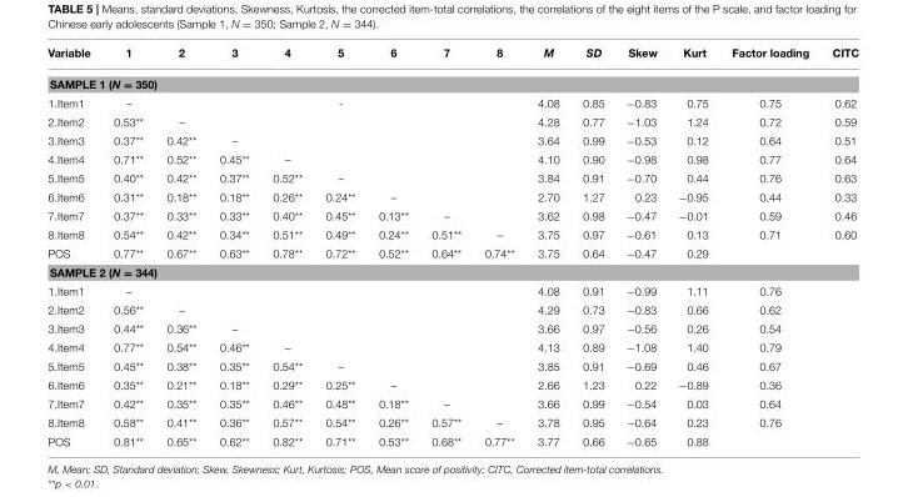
<table><thead><tr><td>Variable</td><td>1</td><td>2</td><td>3</td><td>4</td><td>5</td><td>6</td><td>7</td><td>8</td><td>M</td><td>SD</td><td>Skew</td><td>Kurt</td><td>Factor loading</td><td>CITC</td></tr></thead><tbody><tr><td colspan="15">SAMPLE 1 (N = 350)</td></tr><tr><td>1.Item1</td><td>–</td><td></td><td></td><td></td><td>-</td><td></td><td></td><td></td><td>4.08</td><td>0.85</td><td>−0.83</td><td>0.75</td><td>0.75</td><td>0.62</td></tr><tr><td>2.Item2</td><td>0.53**</td><td>–</td><td></td><td></td><td></td><td></td><td></td><td></td><td>4.28</td><td>0.77</td><td>−1.03</td><td>1.24</td><td>0.72</td><td>0.59</td></tr><tr><td>3.Item3</td><td>0.37**</td><td>0.42**</td><td>–</td><td></td><td></td><td></td><td></td><td></td><td>3.64</td><td>0.99</td><td>−0.53</td><td>0.12</td><td>0.64</td><td>0.51</td></tr><tr><td>4.Item4</td><td>0.71**</td><td>0.52**</td><td>0.45**</td><td>–</td><td></td><td></td><td></td><td></td><td>4.10</td><td>0.90</td><td>−0.98</td><td>0.98</td><td>0.77</td><td>0.64</td></tr><tr><td>5.Item5</td><td>0.40**</td><td>0.42**</td><td>0.37**</td><td>0.52**</td><td>–</td><td></td><td></td><td></td><td>3.84</td><td>0.91</td><td>−0.70</td><td>0.44</td><td>0.76</td><td>0.63</td></tr><tr><td>6.Item6</td><td>0.31**</td><td>0.18**</td><td>0.18**</td><td>0.26**</td><td>0.24**</td><td>–</td><td></td><td></td><td>2.70</td><td>1.27</td><td>0.23</td><td>−0.95</td><td>0.44</td><td>0.33</td></tr><tr><td>7.Item7</td><td>0.37**</td><td>0.33**</td><td>0.33**</td><td>0.40**</td><td>0.45**</td><td>0.13**</td><td>–</td><td></td><td>3.62</td><td>0.98</td><td>−0.47</td><td>−0.01</td><td>0.59</td><td>0.46</td></tr><tr><td>8.Item8</td><td>0.54**</td><td>0.42**</td><td>0.34**</td><td>0.51**</td><td>0.49**</td><td>0.24**</td><td>0.51**</td><td>–</td><td>3.75</td><td>0.97</td><td>−0.61</td><td>0.13</td><td>0.71</td><td>0.60</td></tr><tr><td>POS</td><td>0.77**</td><td>0.67**</td><td>0.63**</td><td>0.78**</td><td>0.72**</td><td>0.52**</td><td>0.64**</td><td>0.74**</td><td>3.75</td><td>0.64</td><td>−0.47</td><td>0.29</td><td></td><td></td></tr><tr><td colspan="15">SAMPLE 2 (N = 344)</td></tr><tr><td>1.Item1</td><td>–</td><td></td><td></td><td></td><td></td><td></td><td></td><td></td><td>4.08</td><td>0.91</td><td>−0.99</td><td>1.11</td><td>0.76</td><td></td></tr><tr><td>2.Item2</td><td>0.56**</td><td>–</td><td></td><td></td><td></td><td></td><td></td><td></td><td>4.29</td><td>0.73</td><td>−0.83</td><td>0.66</td><td>0.62</td><td></td></tr><tr><td>3.Item3</td><td>0.44**</td><td>0.36**</td><td>–</td><td></td><td></td><td></td><td></td><td></td><td>3.66</td><td>0.97</td><td>−0.56</td><td>0.26</td><td>0.54</td><td></td></tr><tr><td>4.Item4</td><td>0.77**</td><td>0.54**</td><td>0.46**</td><td>–</td><td></td><td></td><td></td><td></td><td>4.13</td><td>0.89</td><td>−1.08</td><td>1.40</td><td>0.79</td><td></td></tr><tr><td>5.Item5</td><td>0.45**</td><td>0.38**</td><td>0.35**</td><td>0.54**</td><td>–</td><td></td><td></td><td></td><td>3.85</td><td>0.91</td><td>−0.69</td><td>0.46</td><td>0.67</td><td></td></tr><tr><td>6.Item6</td><td>0.35**</td><td>0.21**</td><td>0.18**</td><td>0.29**</td><td>0.25**</td><td>–</td><td></td><td></td><td>2.66</td><td>1.23</td><td>0.22</td><td>−0.89</td><td>0.36</td><td></td></tr><tr><td>7.Item7</td><td>0.42**</td><td>0.35**</td><td>0.35**</td><td>0.46**</td><td>0.48**</td><td>0.18**</td><td>–</td><td></td><td>3.66</td><td>0.99</td><td>−0.54</td><td>0.03</td><td>0.64</td><td></td></tr><tr><td>8.Item8</td><td>0.58**</td><td>0.41**</td><td>0.36**</td><td>0.57**</td><td>0.54**</td><td>0.26**</td><td>0.57**</td><td>–</td><td>3.78</td><td>0.95</td><td>−0.64</td><td>0.23</td><td>0.76</td><td></td></tr><tr><td>POS</td><td>0.81**</td><td>0.65**</td><td>0.62**</td><td>0.82**</td><td>0.71**</td><td>0.53**</td><td>0.68**</td><td>0.77**</td><td>3.77</td><td>0.66</td><td>−0.65</td><td>0.88</td><td></td><td></td></tr></tbody></table>